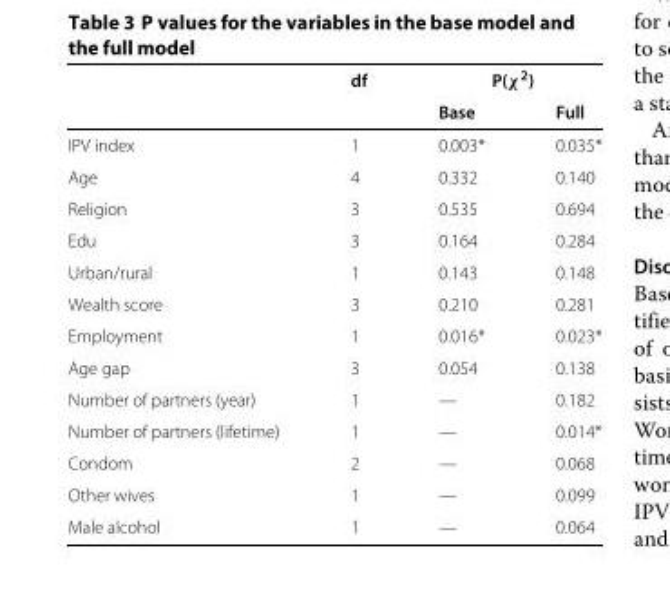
<table><thead><tr><td rowspan="2"></td><td rowspan="2">df</td><td colspan="2">P(χ<sup>2</sup>)</td></tr><tr><td>Base</td><td>Full</td></tr></thead><tbody><tr><td>IPV index</td><td>1</td><td>0.003*</td><td>0.035*</td></tr><tr><td>Age</td><td>4</td><td>0.332</td><td>0.140</td></tr><tr><td>Religion</td><td>3</td><td>0.535</td><td>0.694</td></tr><tr><td>Edu</td><td>3</td><td>0.164</td><td>0.284</td></tr><tr><td>Urban/rural</td><td>1</td><td>0.143</td><td>0.148</td></tr><tr><td>Wealth score</td><td>3</td><td>0.210</td><td>0.281</td></tr><tr><td>Employment</td><td>1</td><td>0.016*</td><td>0.023*</td></tr><tr><td>Age gap</td><td>3</td><td>0.054</td><td>0.138</td></tr><tr><td>Number of partners (year)</td><td>1</td><td>—</td><td>0.182</td></tr><tr><td>Number of partners (lifetime)</td><td>1</td><td>—</td><td>0.014*</td></tr><tr><td>Condom</td><td>2</td><td>—</td><td>0.068</td></tr><tr><td>Other wives</td><td>1</td><td>—</td><td>0.099</td></tr><tr><td>Male alcohol</td><td>1</td><td>—</td><td>0.064</td></tr></tbody></table>